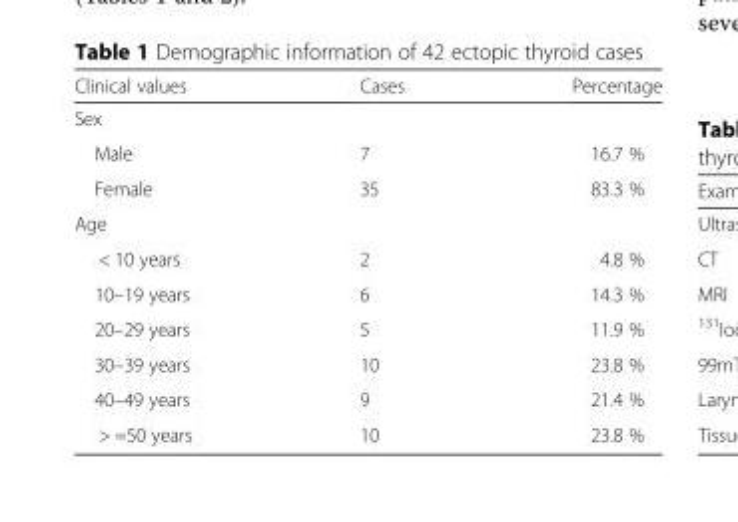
<table><thead><tr><td>Clinical values</td><td>Cases</td><td>Percentage</td></tr></thead><tbody><tr><td colspan="3">Sex</td></tr><tr><td>Male</td><td>7</td><td>16.7 %</td></tr><tr><td>Female</td><td>35</td><td>83.3 %</td></tr><tr><td colspan="3">Age</td></tr><tr><td>&lt; 10 years</td><td>2</td><td>4.8 %</td></tr><tr><td>10–19 years</td><td>6</td><td>14.3 %</td></tr><tr><td>20–29 years</td><td>5</td><td>11.9 %</td></tr><tr><td>30–39 years</td><td>10</td><td>23.8 %</td></tr><tr><td>40–49 years</td><td>9</td><td>21.4 %</td></tr><tr><td>&gt; =50 years</td><td>10</td><td>23.8 %</td></tr></tbody></table>